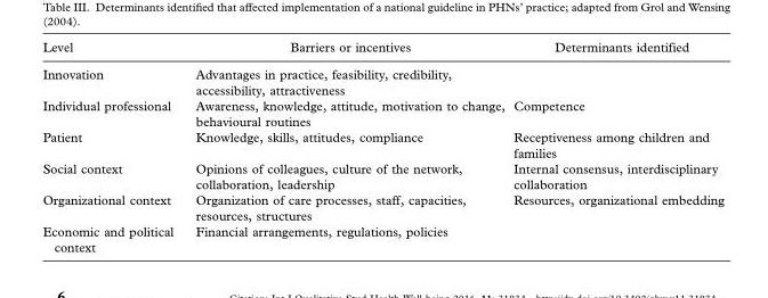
<table><thead><tr><td>Level</td><td>Barriers or incentives</td><td>Determinants identified</td></tr></thead><tbody><tr><td>Innovation</td><td>Advantages in practice, feasibility, credibility, accessibility, attractiveness</td><td></td></tr><tr><td>Individual professional</td><td>Awareness, knowledge, attitude, motivation to change, behavioural routines</td><td>Competence</td></tr><tr><td>Patient</td><td>Knowledge, skills, attitudes, compliance</td><td>Receptiveness among children and families</td></tr><tr><td>Social context</td><td>Opinions of colleagues, culture of the network, collaboration, leadership</td><td>Internal consensus, interdisciplinary collaboration</td></tr><tr><td>Organizational context</td><td>Organization of care processes, staff, capacities, resources, structures</td><td>Resources, organizational embedding</td></tr><tr><td>Economic and political context</td><td>Financial arrangements, regulations, policies</td><td></td></tr></tbody></table>